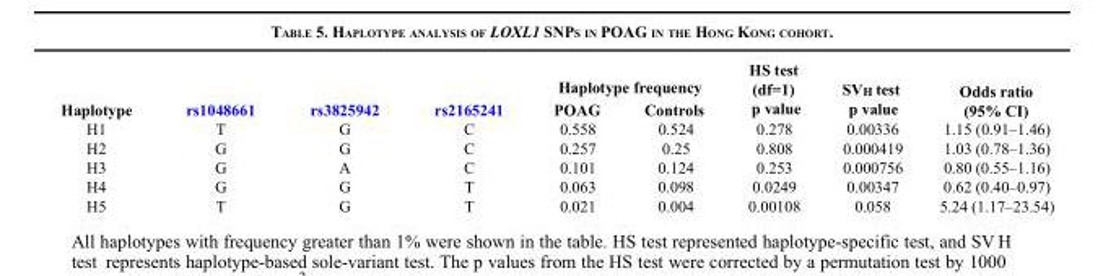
<table><thead><tr><td rowspan="2">Haplotype</td><td rowspan="2">rs1048661</td><td rowspan="2">rs3825942</td><td rowspan="2">rs2165241</td><td colspan="2">Haplotype frequency</td><td rowspan="2">HS test (df=1) p value</td><td rowspan="2">SV<sub>H</sub> test p value</td><td rowspan="2">Odds ratio (95% CI)</td></tr><tr><td>POAG</td><td>Controls</td></tr></thead><tbody><tr><td>H1</td><td>T</td><td>G</td><td>C</td><td>0.558</td><td>0.524</td><td>0.278</td><td>0.00336</td><td>1.15 (0.91–1.46)</td></tr><tr><td>H2</td><td>G</td><td>G</td><td>C</td><td>0.257</td><td>0.25</td><td>0.808</td><td>0.000419</td><td>1.03 (0.78–1.36)</td></tr><tr><td>H3</td><td>G</td><td>A</td><td>C</td><td>0.101</td><td>0.124</td><td>0.253</td><td>0.000756</td><td>0.80 (0.55–1.16)</td></tr><tr><td>H4</td><td>G</td><td>G</td><td>T</td><td>0.063</td><td>0.098</td><td>0.0249</td><td>0.00347</td><td>0.62 (0.40–0.97)</td></tr><tr><td>H5</td><td>T</td><td>G</td><td>T</td><td>0.021</td><td>0.004</td><td>0.00108</td><td>0.058</td><td>5.24 (1.17–23.54)</td></tr></tbody></table>